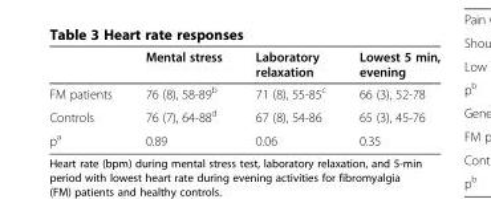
<table><thead><tr><td></td><td>Mental stress</td><td>Laboratory relaxation</td><td>Lowest 5 min, evening</td></tr></thead><tbody><tr><td>FM patients</td><td>76 (8), 58-89<sup>b</sup></td><td>71 (8), 55-85<sup>c</sup></td><td>66 (3), 52-78</td></tr><tr><td>Controls</td><td>76 (7), 64-88<sup>d</sup></td><td>67 (8), 54-86</td><td>65 (3), 45-76</td></tr><tr><td>p<sup>a</sup></td><td>0.89</td><td>0.06</td><td>0.35</td></tr></tbody></table>